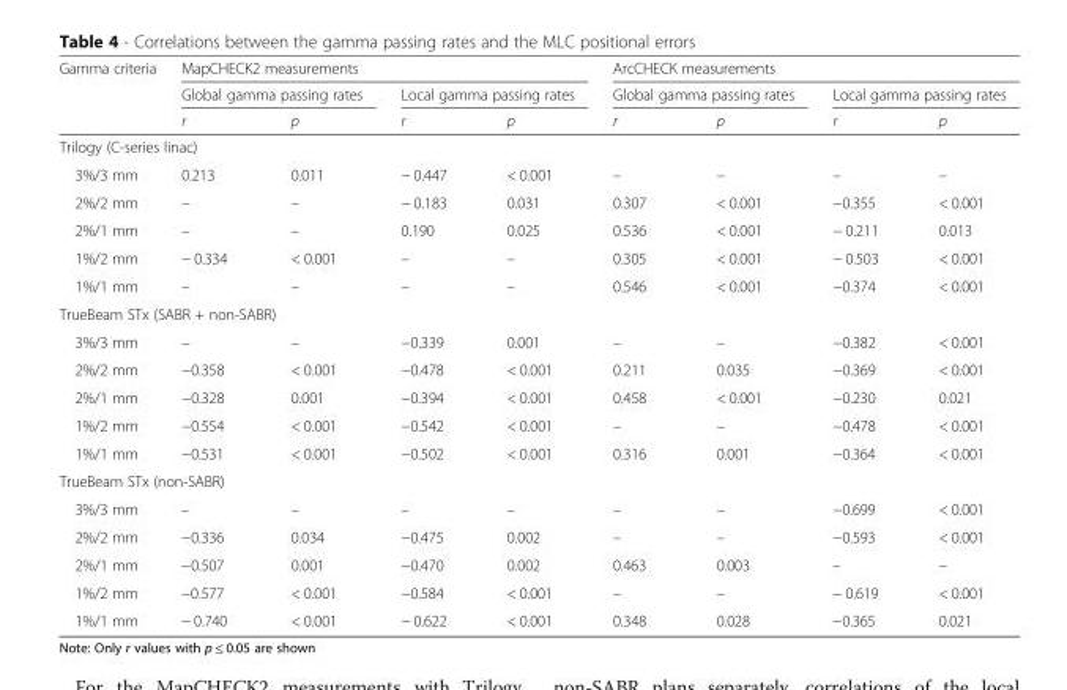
<table><thead><tr><td rowspan="3">Gamma criteria</td><td colspan="4">MapCHECK2 measurements</td><td colspan="4">ArcCHECK measurements</td></tr><tr><td colspan="2">Global gamma passing rates</td><td colspan="2">Local gamma passing rates</td><td colspan="2">Global gamma passing rates</td><td colspan="2">Local gamma passing rates</td></tr><tr><td>r</td><td>p</td><td>r</td><td>p</td><td>r</td><td>p</td><td>r</td><td>p</td></tr></thead><tbody><tr><td colspan="9">Trilogy (C-series linac)</td></tr><tr><td>3%/3 mm</td><td>0.213</td><td>0.011</td><td>− 0.447</td><td>&lt; 0.001</td><td>–</td><td>–</td><td>–</td><td>–</td></tr><tr><td>2%/2 mm</td><td>–</td><td>–</td><td>− 0.183</td><td>0.031</td><td>0.307</td><td>&lt; 0.001</td><td>−0.355</td><td>&lt; 0.001</td></tr><tr><td>2%/1 mm</td><td>–</td><td>–</td><td>0.190</td><td>0.025</td><td>0.536</td><td>&lt; 0.001</td><td>− 0.211</td><td>0.013</td></tr><tr><td>1%/2 mm</td><td>− 0.334</td><td>&lt; 0.001</td><td>–</td><td>–</td><td>0.305</td><td>&lt; 0.001</td><td>− 0.503</td><td>&lt; 0.001</td></tr><tr><td>1%/1 mm</td><td>–</td><td>–</td><td>–</td><td>–</td><td>0.546</td><td>&lt; 0.001</td><td>−0.374</td><td>&lt; 0.001</td></tr><tr><td colspan="9">TrueBeam STx (SABR + non-SABR)</td></tr><tr><td>3%/3 mm</td><td>–</td><td>–</td><td>−0.339</td><td>0.001</td><td>–</td><td>–</td><td>−0.382</td><td>&lt; 0.001</td></tr><tr><td>2%/2 mm</td><td>−0.358</td><td>&lt; 0.001</td><td>−0.478</td><td>&lt; 0.001</td><td>0.211</td><td>0.035</td><td>−0.369</td><td>&lt; 0.001</td></tr><tr><td>2%/1 mm</td><td>−0.328</td><td>0.001</td><td>−0.394</td><td>&lt; 0.001</td><td>0.458</td><td>&lt; 0.001</td><td>−0.230</td><td>0.021</td></tr><tr><td>1%/2 mm</td><td>−0.554</td><td>&lt; 0.001</td><td>−0.542</td><td>&lt; 0.001</td><td>–</td><td>–</td><td>−0.478</td><td>&lt; 0.001</td></tr><tr><td>1%/1 mm</td><td>−0.531</td><td>&lt; 0.001</td><td>−0.502</td><td>&lt; 0.001</td><td>0.316</td><td>0.001</td><td>−0.364</td><td>&lt; 0.001</td></tr><tr><td colspan="9">TrueBeam STx (non-SABR)</td></tr><tr><td>3%/3 mm</td><td>–</td><td>–</td><td>–</td><td>–</td><td>–</td><td>–</td><td>−0.699</td><td>&lt; 0.001</td></tr><tr><td>2%/2 mm</td><td>−0.336</td><td>0.034</td><td>−0.475</td><td>0.002</td><td>–</td><td>–</td><td>−0.593</td><td>&lt; 0.001</td></tr><tr><td>2%/1 mm</td><td>−0.507</td><td>0.001</td><td>−0.470</td><td>0.002</td><td>0.463</td><td>0.003</td><td>–</td><td>–</td></tr><tr><td>1%/2 mm</td><td>−0.577</td><td>&lt; 0.001</td><td>−0.584</td><td>&lt; 0.001</td><td>–</td><td>–</td><td>− 0.619</td><td>&lt; 0.001</td></tr><tr><td>1%/1 mm</td><td>− 0.740</td><td>&lt; 0.001</td><td>− 0.622</td><td>&lt; 0.001</td><td>0.348</td><td>0.028</td><td>−0.365</td><td>0.021</td></tr></tbody></table>